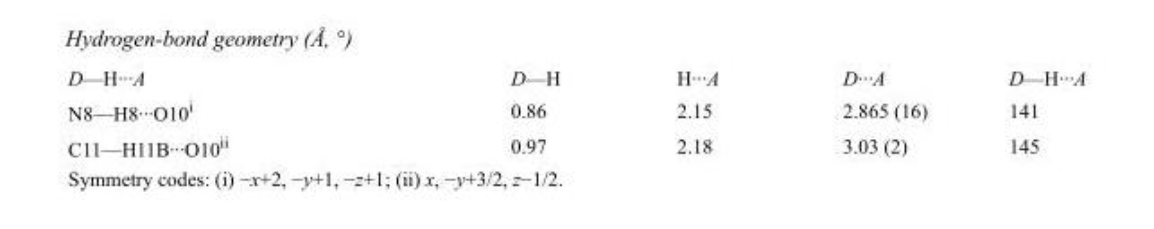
<table><tbody><tr><td>D—H···A</td><td>D—H</td><td>H···A</td><td>D···A</td><td>D—H···A</td></tr><tr><td>N8—H8···O10<sup>i</sup></td><td>0.86</td><td>2.15</td><td>2.865 (16)</td><td>141</td></tr><tr><td>C11—H11B···O10<sup>ii</sup></td><td>0.97</td><td>2.18</td><td>3.03 (2)</td><td>145</td></tr></tbody></table>